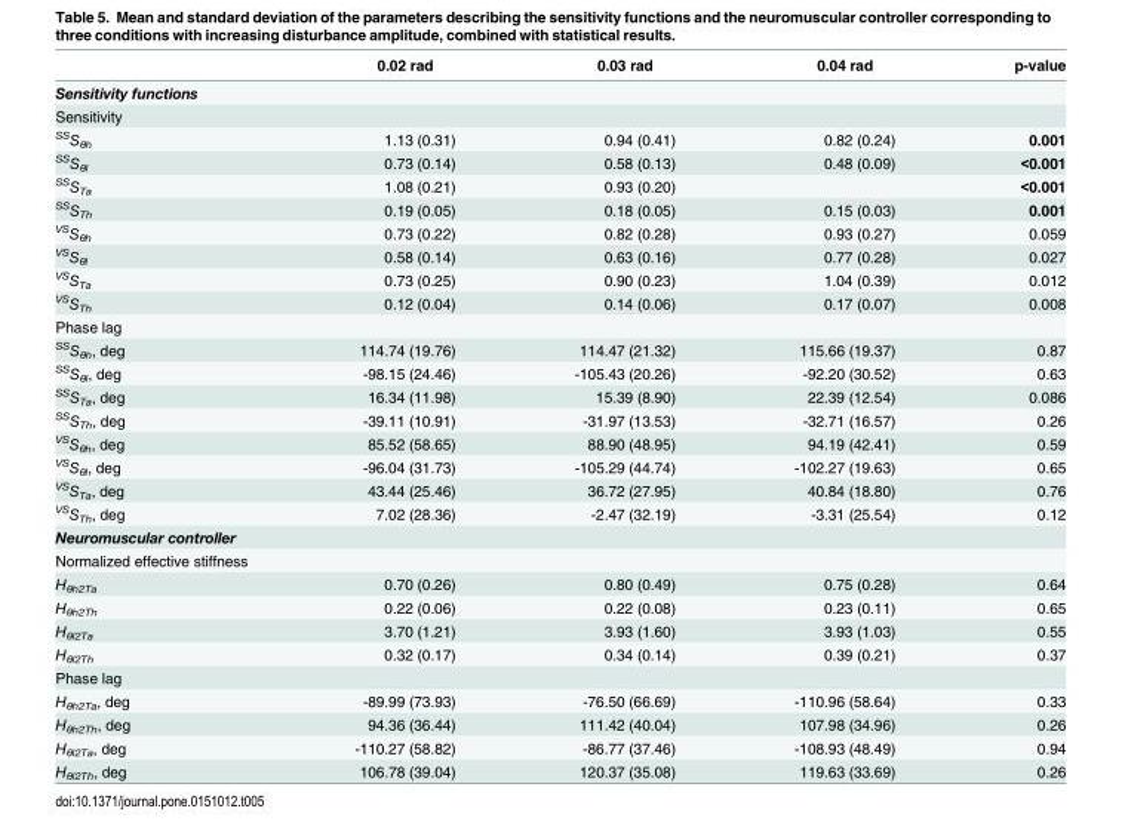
<table><thead><tr><td></td><td>0.02 rad</td><td>0.03 rad</td><td>0.04 rad</td><td>p-value</td></tr></thead><tbody><tr><td colspan="5">Sensitivity functions</td></tr><tr><td colspan="5">Sensitivity</td></tr><tr><td><sup>SS</sup>S<sub>θh</sub></td><td>1.13 (0.31)</td><td>0.94 (0.41)</td><td>0.82 (0.24)</td><td>0.001</td></tr><tr><td><sup>SS</sup>S<sub>θl</sub></td><td>0.73 (0.14)</td><td>0.58 (0.13)</td><td>0.48 (0.09)</td><td>&lt;0.001</td></tr><tr><td><sup>SS</sup>S<sub>Ta</sub></td><td>1.08 (0.21)</td><td>0.93 (0.20)</td><td></td><td>&lt;0.001</td></tr><tr><td><sup>SS</sup>S<sub>Th</sub></td><td>0.19 (0.05)</td><td>0.18 (0.05)</td><td>0.15 (0.03)</td><td>0.001</td></tr><tr><td><sup>VS</sup>S<sub>θh</sub></td><td>0.73 (0.22)</td><td>0.82 (0.28)</td><td>0.93 (0.27)</td><td>0.059</td></tr><tr><td><sup>VS</sup>S<sub>θl</sub></td><td>0.58 (0.14)</td><td>0.63 (0.16)</td><td>0.77 (0.28)</td><td>0.027</td></tr><tr><td><sup>VS</sup>S<sub>Ta</sub></td><td>0.73 (0.25)</td><td>0.90 (0.23)</td><td>1.04 (0.39)</td><td>0.012</td></tr><tr><td><sup>VS</sup>S<sub>Th</sub></td><td>0.12 (0.04)</td><td>0.14 (0.06)</td><td>0.17 (0.07)</td><td>0.008</td></tr><tr><td colspan="5">Phase lag</td></tr><tr><td><sup>SS</sup>S<sub>θh</sub>, deg</td><td>114.74 (19.76)</td><td>114.47 (21.32)</td><td>115.66 (19.37)</td><td>0.87</td></tr><tr><td><sup>SS</sup>S<sub>θl</sub>, deg</td><td>-98.15 (24.46)</td><td>-105.43 (20.26)</td><td>-92.20 (30.52)</td><td>0.63</td></tr><tr><td><sup>SS</sup>S<sub>Ta</sub>, deg</td><td>16.34 (11.98)</td><td>15.39 (8.90)</td><td>22.39 (12.54)</td><td>0.086</td></tr><tr><td><sup>SS</sup>S<sub>Th</sub>, deg</td><td>-39.11 (10.91)</td><td>-31.97 (13.53)</td><td>-32.71 (16.57)</td><td>0.26</td></tr><tr><td><sup>VS</sup>S<sub>θh</sub>, deg</td><td>85.52 (58.65)</td><td>88.90 (48.95)</td><td>94.19 (42.41)</td><td>0.59</td></tr><tr><td><sup>VS</sup>S<sub>θl</sub>, deg</td><td>-96.04 (31.73)</td><td>-105.29 (44.74)</td><td>-102.27 (19.63)</td><td>0.65</td></tr><tr><td><sup>VS</sup>S<sub>Ta</sub>, deg</td><td>43.44 (25.46)</td><td>36.72 (27.95)</td><td>40.84 (18.80)</td><td>0.76</td></tr><tr><td><sup>VS</sup>S<sub>Th</sub>, deg</td><td>7.02 (28.36)</td><td>-2.47 (32.19)</td><td>-3.31 (25.54)</td><td>0.12</td></tr><tr><td colspan="5">Neuromuscular controller</td></tr><tr><td colspan="5">Normalized effective stiffness</td></tr><tr><td>H<sub>θh2Ta</sub></td><td>0.70 (0.26)</td><td>0.80 (0.49)</td><td>0.75 (0.28)</td><td>0.64</td></tr><tr><td>H<sub>θh2Th</sub></td><td>0.22 (0.06)</td><td>0.22 (0.08)</td><td>0.23 (0.11)</td><td>0.65</td></tr><tr><td>H<sub>θl2Ta</sub></td><td>3.70 (1.21)</td><td>3.93 (1.60)</td><td>3.93 (1.03)</td><td>0.55</td></tr><tr><td>H<sub>θl2Th</sub></td><td>0.32 (0.17)</td><td>0.34 (0.14)</td><td>0.39 (0.21)</td><td>0.37</td></tr><tr><td colspan="5">Phase lag</td></tr><tr><td>H<sub>θh2Ta</sub>, deg</td><td>-89.99 (73.93)</td><td>-76.50 (66.69)</td><td>-110.96 (58.64)</td><td>0.33</td></tr><tr><td>H<sub>θh2Th</sub>, deg</td><td>94.36 (36.44)</td><td>111.42 (40.04)</td><td>107.98 (34.96)</td><td>0.26</td></tr><tr><td>H<sub>θl2Ta</sub>, deg</td><td>-110.27 (58.82)</td><td>-86.77 (37.46)</td><td>-108.93 (48.49)</td><td>0.94</td></tr><tr><td>H<sub>θl2Th</sub>, deg</td><td>106.78 (39.04)</td><td>120.37 (35.08)</td><td>119.63 (33.69)</td><td>0.26</td></tr></tbody></table>